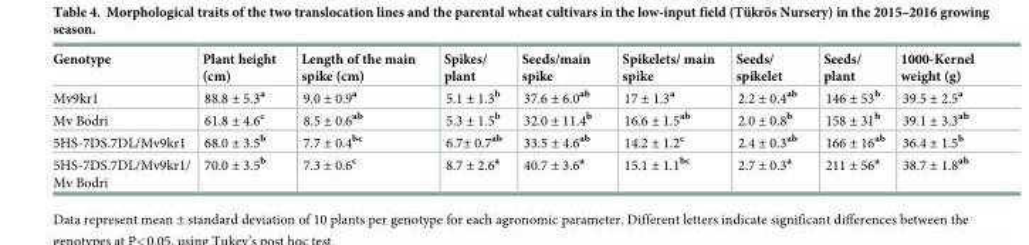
<table><thead><tr><td>Genotype</td><td>Plant height (cm)</td><td>Length of the main spike (cm)</td><td>Spikes/ plant</td><td>Seeds/main spike</td><td>Spikelets/ main spike</td><td>Seeds/ spikelet</td><td>Seeds/ plant</td><td>1000-Kernel weight (g)</td></tr></thead><tbody><tr><td>Mv9kr1</td><td>88.8 ± 5.3<sup>a</sup></td><td>9.0 ± 0.9<sup>a</sup></td><td>5.1 ± 1.3<sup>b</sup></td><td>37.6 ± 6.0<sup>ab</sup></td><td>17 ± 1.3<sup>a</sup></td><td>2.2 ± 0.4<sup>ab</sup></td><td>146 ± 53<sup>b</sup></td><td>39.5 ± 2.5<sup>a</sup></td></tr><tr><td>Mv Bodri</td><td>61.8 ± 4.6<sup>c</sup></td><td>8.5 ± 0.6<sup>ab</sup></td><td>5.3 ± 1.5<sup>b</sup></td><td>32.0 ± 11.4<sup>b</sup></td><td>16.6 ± 1.5<sup>ab</sup></td><td>2.0 ± 0.8<sup>b</sup></td><td>158 ± 31<sup>b</sup></td><td>39.1 ± 3.3<sup>ab</sup></td></tr><tr><td>5HS-7DS.7DL/Mv9kr1</td><td>68.0 ± 3.5<sup>b</sup></td><td>7.7 ± 0.4<sup>bc</sup></td><td>6.7± 0.7<sup>ab</sup></td><td>33.5 ± 4.6<sup>ab</sup></td><td>14.2 ± 1.2<sup>c</sup></td><td>2.4 ± 0.3<sup>ab</sup></td><td>166 ± 16<sup>ab</sup></td><td>36.4 ± 1.5<sup>b</sup></td></tr><tr><td>5HS-7DS.7DL/Mv9kr1/ Mv Bodri</td><td>70.0 ± 3.5<sup>b</sup></td><td>7.3 ± 0.6<sup>c</sup></td><td>8.7 ± 2.6<sup>a</sup></td><td>40.7 ± 3.6<sup>a</sup></td><td>15.1 ± 1.1<sup>bc</sup></td><td>2.7 ± 0.3<sup>a</sup></td><td>211 ± 56<sup>a</sup></td><td>38.7 ± 1.8<sup>ab</sup></td></tr></tbody></table>